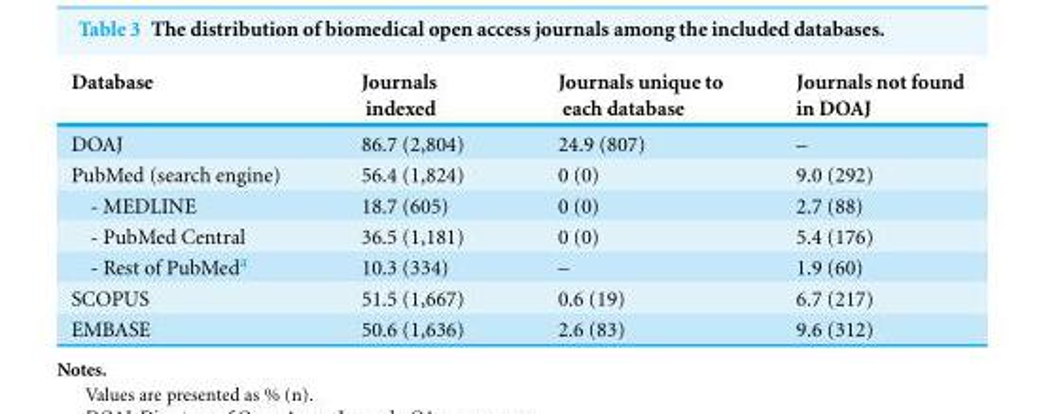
<table><thead><tr><td>Database</td><td>Journals indexed</td><td>Journals unique to each database</td><td>Journals not found in DOAJ</td></tr></thead><tbody><tr><td>DOAJ</td><td>86.7 (2,804)</td><td>24.9 (807)</td><td>–</td></tr><tr><td>PubMed (search engine)</td><td>56.4 (1,824)</td><td>0 (0)</td><td>9.0 (292)</td></tr><tr><td>- MEDLINE</td><td>18.7 (605)</td><td>0 (0)</td><td>2.7 (88)</td></tr><tr><td>- PubMed Central</td><td>36.5 (1,181)</td><td>0 (0)</td><td>5.4 (176)</td></tr><tr><td>- Rest of PubMed<sup>a</sup></td><td>10.3 (334)</td><td>–</td><td>1.9 (60)</td></tr><tr><td>SCOPUS</td><td>51.5 (1,667)</td><td>0.6 (19)</td><td>6.7 (217)</td></tr><tr><td>EMBASE</td><td>50.6 (1,636)</td><td>2.6 (83)</td><td>9.6 (312)</td></tr></tbody></table>